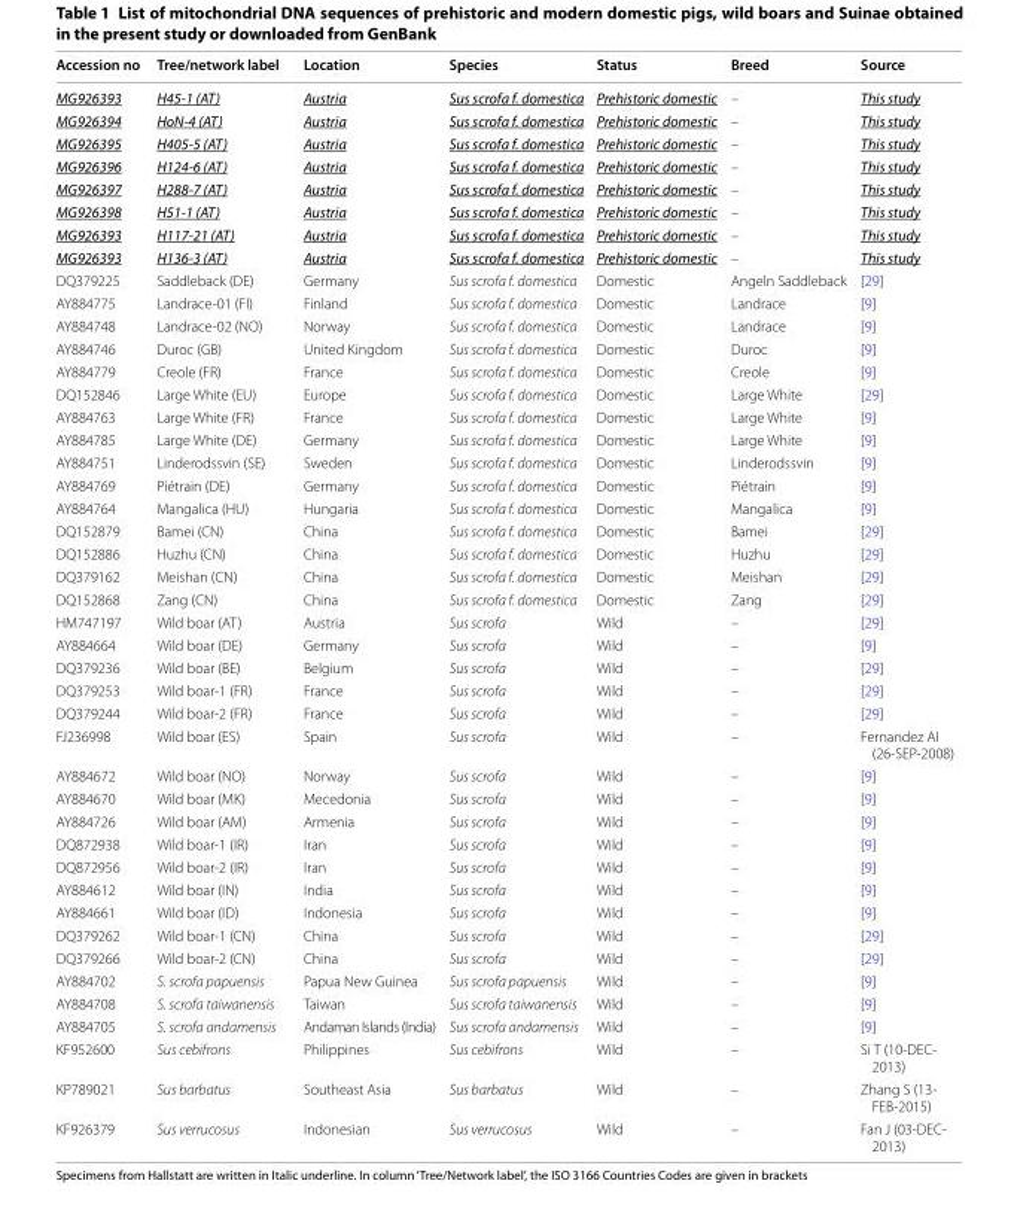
<table><thead><tr><td>Accession no</td><td>Tree/network label</td><td>Location</td><td>Species</td><td>Status</td><td>Breed</td><td>Source</td></tr></thead><tbody><tr><td>MG926393</td><td>H45-1 (AT)</td><td>Austria</td><td>Sus scrofa f. domestica</td><td>Prehistoric domestic</td><td>–</td><td>This study</td></tr><tr><td>MG926394</td><td>HoN-4 (AT)</td><td>Austria</td><td>Sus scrofa f. domestica</td><td>Prehistoric domestic</td><td>–</td><td>This study</td></tr><tr><td>MG926395</td><td>H405-5 (AT)</td><td>Austria</td><td>Sus scrofa f. domestica</td><td>Prehistoric domestic</td><td>–</td><td>This study</td></tr><tr><td>MG926396</td><td>H124-6 (AT)</td><td>Austria</td><td>Sus scrofa f. domestica</td><td>Prehistoric domestic</td><td>–</td><td>This study</td></tr><tr><td>MG926397</td><td>H288-7 (AT)</td><td>Austria</td><td>Sus scrofa f. domestica</td><td>Prehistoric domestic</td><td>–</td><td>This study</td></tr><tr><td>MG926398</td><td>H51-1 (AT)</td><td>Austria</td><td>Sus scrofa f. domestica</td><td>Prehistoric domestic</td><td>–</td><td>This study</td></tr><tr><td>MG926393</td><td>H117-21 (AT)</td><td>Austria</td><td>Sus scrofa f. domestica</td><td>Prehistoric domestic</td><td>–</td><td>This study</td></tr><tr><td>MG926393</td><td>H136-3 (AT)</td><td>Austria</td><td>Sus scrofa f. domestica</td><td>Prehistoric domestic</td><td>–</td><td>This study</td></tr><tr><td>DQ379225</td><td>Saddleback (DE)</td><td>Germany</td><td>Sus scrofa f. domestica</td><td>Domestic</td><td>Angeln Saddleback</td><td>[29]</td></tr><tr><td>AY884775</td><td>Landrace-01 (FI)</td><td>Finland</td><td>Sus scrofa f. domestica</td><td>Domestic</td><td>Landrace</td><td>[9]</td></tr><tr><td>AY884748</td><td>Landrace-02 (NO)</td><td>Norway</td><td>Sus scrofa f. domestica</td><td>Domestic</td><td>Landrace</td><td>[9]</td></tr><tr><td>AY884746</td><td>Duroc (GB)</td><td>United Kingdom</td><td>Sus scrofa f. domestica</td><td>Domestic</td><td>Duroc</td><td>[9]</td></tr><tr><td>AY884779</td><td>Creole (FR)</td><td>France</td><td>Sus scrofa f. domestica</td><td>Domestic</td><td>Creole</td><td>[9]</td></tr><tr><td>DQ152846</td><td>Large White (EU)</td><td>Europe</td><td>Sus scrofa f. domestica</td><td>Domestic</td><td>Large White</td><td>[29]</td></tr><tr><td>AY884763</td><td>Large White (FR)</td><td>France</td><td>Sus scrofa f. domestica</td><td>Domestic</td><td>Large White</td><td>[9]</td></tr><tr><td>AY884785</td><td>Large White (DE)</td><td>Germany</td><td>Sus scrofa f. domestica</td><td>Domestic</td><td>Large White</td><td>[9]</td></tr><tr><td>AY884751</td><td>Linderodssvin (SE)</td><td>Sweden</td><td>Sus scrofa f. domestica</td><td>Domestic</td><td>Linderodssvin</td><td>[9]</td></tr><tr><td>AY884769</td><td>Piétrain (DE)</td><td>Germany</td><td>Sus scrofa f. domestica</td><td>Domestic</td><td>Piétrain</td><td>[9]</td></tr><tr><td>AY884764</td><td>Mangalica (HU)</td><td>Hungaria</td><td>Sus scrofa f. domestica</td><td>Domestic</td><td>Mangalica</td><td>[9]</td></tr><tr><td>DQ152879</td><td>Bamei (CN)</td><td>China</td><td>Sus scrofa f. domestica</td><td>Domestic</td><td>Bamei</td><td>[29]</td></tr><tr><td>DQ152886</td><td>Huzhu (CN)</td><td>China</td><td>Sus scrofa f. domestica</td><td>Domestic</td><td>Huzhu</td><td>[29]</td></tr><tr><td>DQ379162</td><td>Meishan (CN)</td><td>China</td><td>Sus scrofa f. domestica</td><td>Domestic</td><td>Meishan</td><td>[29]</td></tr><tr><td>DQ152868</td><td>Zang (CN)</td><td>China</td><td>Sus scrofa f. domestica</td><td>Domestic</td><td>Zang</td><td>[29]</td></tr><tr><td>HM747197</td><td>Wild boar (AT)</td><td>Austria</td><td>Sus scrofa</td><td>Wild</td><td>–</td><td>[29]</td></tr><tr><td>AY884664</td><td>Wild boar (DE)</td><td>Germany</td><td>Sus scrofa</td><td>Wild</td><td>–</td><td>[9]</td></tr><tr><td>DQ379236</td><td>Wild boar (BE)</td><td>Belgium</td><td>Sus scrofa</td><td>Wild</td><td>–</td><td>[29]</td></tr><tr><td>DQ379253</td><td>Wild boar-1 (FR)</td><td>France</td><td>Sus scrofa</td><td>Wild</td><td>–</td><td>[29]</td></tr><tr><td>DQ379244</td><td>Wild boar-2 (FR)</td><td>France</td><td>Sus scrofa</td><td>Wild</td><td>–</td><td>[29]</td></tr><tr><td>FJ236998</td><td>Wild boar (ES)</td><td>Spain</td><td>Sus scrofa</td><td>Wild</td><td>–</td><td>Fernandez AI (26-SEP-2008)</td></tr><tr><td>AY884672</td><td>Wild boar (NO)</td><td>Norway</td><td>Sus scrofa</td><td>Wild</td><td>–</td><td>[9]</td></tr><tr><td>AY884670</td><td>Wild boar (MK)</td><td>Mecedonia</td><td>Sus scrofa</td><td>Wild</td><td>–</td><td>[9]</td></tr><tr><td>AY884726</td><td>Wild boar (AM)</td><td>Armenia</td><td>Sus scrofa</td><td>Wild</td><td>–</td><td>[9]</td></tr><tr><td>DQ872938</td><td>Wild boar-1 (IR)</td><td>Iran</td><td>Sus scrofa</td><td>Wild</td><td>–</td><td>[9]</td></tr><tr><td>DQ872956</td><td>Wild boar-2 (IR)</td><td>Iran</td><td>Sus scrofa</td><td>Wild</td><td>–</td><td>[9]</td></tr><tr><td>AY884612</td><td>Wild boar (IN)</td><td>India</td><td>Sus scrofa</td><td>Wild</td><td>–</td><td>[9]</td></tr><tr><td>AY884661</td><td>Wild boar (ID)</td><td>Indonesia</td><td>Sus scrofa</td><td>Wild</td><td>–</td><td>[9]</td></tr><tr><td>DQ379262</td><td>Wild boar-1 (CN)</td><td>China</td><td>Sus scrofa</td><td>Wild</td><td>–</td><td>[29]</td></tr><tr><td>DQ379266</td><td>Wild boar-2 (CN)</td><td>China</td><td>Sus scrofa</td><td>Wild</td><td>–</td><td>[29]</td></tr><tr><td>AY884702</td><td>S. scrofa papuensis</td><td>Papua New Guinea</td><td>Sus scrofa papuensis</td><td>Wild</td><td>–</td><td>[9]</td></tr><tr><td>AY884708</td><td>S. scrofa taiwanensis</td><td>Taiwan</td><td>Sus scrofa taiwanensis</td><td>Wild</td><td>–</td><td>[9]</td></tr><tr><td>AY884705</td><td>S. scrofa andamensis</td><td>Andaman Islands (India)</td><td>Sus scrofa andamensis</td><td>Wild</td><td>–</td><td>[9]</td></tr><tr><td>KF952600</td><td>Sus cebifrons</td><td>Philippines</td><td>Sus cebifrons</td><td>Wild</td><td>–</td><td>Si T (10-DEC- 2013)</td></tr><tr><td>KP789021</td><td>Sus barbatus</td><td>Southeast Asia</td><td>Sus barbatus</td><td>Wild</td><td>–</td><td>Zhang S (13- FEB-2015)</td></tr><tr><td>KF926379</td><td>Sus verrucosus</td><td>Indonesian</td><td>Sus verrucosus</td><td>Wild</td><td>–</td><td>Fan J (03-DEC- 2013)</td></tr></tbody></table>